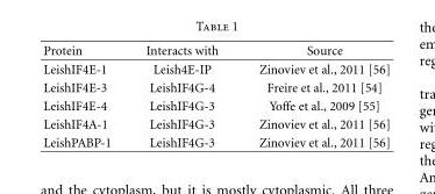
<table><thead><tr><td>Protein</td><td>Interacts with</td><td>Source</td></tr></thead><tbody><tr><td>LeishIF4E-1</td><td>Leish4E-IP</td><td>Zinoviev et al., 2011 [56]</td></tr><tr><td>LeishIF4E-3</td><td>LeishIF4G-4</td><td>Freire et al., 2011 [54]</td></tr><tr><td>LeishIF4E-4</td><td>LeishIF4G-3</td><td>Yoffe et al., 2009 [55]</td></tr><tr><td>LeishIF4A-1</td><td>LeishIF4G-3</td><td>Zinoviev et al., 2011 [56]</td></tr><tr><td>LeishPABP-1</td><td>LeishIF4G-3</td><td>Zinoviev et al., 2011 [56]</td></tr></tbody></table>